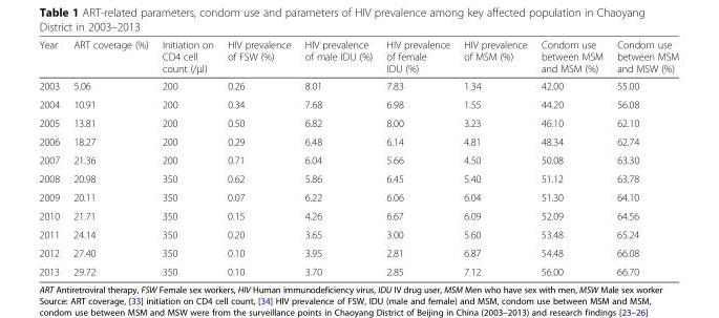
<table><thead><tr><td>Year</td><td>ART coverage (%)</td><td>Initiation on CD4 cell count (/μl)</td><td>HIV prevalence of FSW (%)</td><td>HIV prevalence of male IDU (%)</td><td>HIV prevalence of female IDU (%)</td><td>HIV prevalence of MSM (%)</td><td>Condom use between MSM and MSM (%)</td><td>Condom use between MSM and MSW (%)</td></tr></thead><tbody><tr><td>2003</td><td>5.06</td><td>200</td><td>0.26</td><td>8.01</td><td>7.83</td><td>1.34</td><td>42.00</td><td>55.00</td></tr><tr><td>2004</td><td>10.91</td><td>200</td><td>0.34</td><td>7.68</td><td>6.98</td><td>1.55</td><td>44.20</td><td>56.08</td></tr><tr><td>2005</td><td>13.81</td><td>200</td><td>0.50</td><td>6.82</td><td>8.00</td><td>3.23</td><td>46.10</td><td>62.10</td></tr><tr><td>2006</td><td>18.27</td><td>200</td><td>0.29</td><td>6.48</td><td>6.14</td><td>4.81</td><td>48.34</td><td>62.74</td></tr><tr><td>2007</td><td>21.36</td><td>200</td><td>0.71</td><td>6.04</td><td>5.66</td><td>4.50</td><td>50.08</td><td>63.30</td></tr><tr><td>2008</td><td>20.98</td><td>350</td><td>0.62</td><td>5.86</td><td>6.45</td><td>5.40</td><td>51.12</td><td>63.78</td></tr><tr><td>2009</td><td>20.11</td><td>350</td><td>0.07</td><td>6.22</td><td>6.06</td><td>6.04</td><td>51.30</td><td>64.10</td></tr><tr><td>2010</td><td>21.71</td><td>350</td><td>0.15</td><td>4.26</td><td>6.67</td><td>6.09</td><td>52.09</td><td>64.56</td></tr><tr><td>2011</td><td>24.14</td><td>350</td><td>0.20</td><td>3.65</td><td>3.00</td><td>5.60</td><td>53.48</td><td>65.24</td></tr><tr><td>2012</td><td>27.40</td><td>350</td><td>0.10</td><td>3.95</td><td>2.81</td><td>6.87</td><td>54.48</td><td>66.08</td></tr><tr><td>2013</td><td>29.72</td><td>350</td><td>0.10</td><td>3.70</td><td>2.85</td><td>7.12</td><td>56.00</td><td>66.70</td></tr></tbody></table>